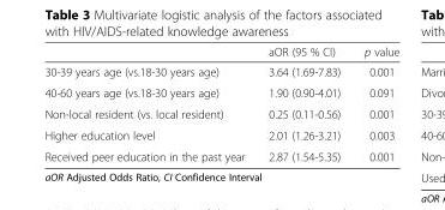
<table><thead><tr><td></td><td>aOR (95 % CI)</td><td>p value</td></tr></thead><tbody><tr><td>30-39 years age (vs.18-30 years age)</td><td>3.64 (1.69-7.83)</td><td>0.001</td></tr><tr><td>40-60 years age (vs.18-30 years age)</td><td>1.90 (0.90-4.01)</td><td>0.091</td></tr><tr><td>Non-local resident (vs. local resident)</td><td>0.25 (0.11-0.56)</td><td>0.001</td></tr><tr><td>Higher education level</td><td>2.01 (1.26-3.21)</td><td>0.003</td></tr><tr><td>Received peer education in the past year</td><td>2.87 (1.54-5.35)</td><td>0.001</td></tr></tbody></table>